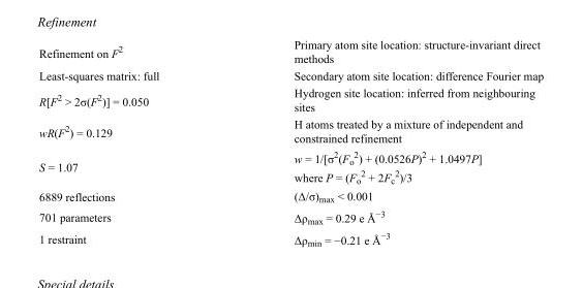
<table><tbody><tr><td>Refinement on F<sup>2</sup></td><td>Primary atom site location: structure-invariant direct methods</td></tr><tr><td>Least-squares matrix: full</td><td>Secondary atom site location: difference Fourier map</td></tr><tr><td>R[F<sup>2</sup> &gt; 2σ(F<sup>2</sup>)] = 0.050</td><td>Hydrogen site location: inferred from neighbouring sites</td></tr><tr><td>wR(F<sup>2</sup>) = 0.129</td><td>H atoms treated by a mixture of independent and constrained refinement</td></tr><tr><td>S = 1.07</td><td>w = 1/[σ<sup>2</sup>(F<sub>o</sub> <sup>2</sup>) + (0.0526P)<sup>2</sup> + 1.0497P] where P = (F<sub>o</sub> <sup>2</sup> + 2F<sub>c</sub> <sup>2</sup>)/3</td></tr><tr><td>6889 reflections</td><td>(Δ/σ)<sub>max</sub> &lt; 0.001</td></tr><tr><td>701 parameters</td><td>Δρ<sub>max</sub> = 0.29 e Å<sup>−3</sup></td></tr><tr><td>1 restraint</td><td>Δρ<sub>min</sub> = −0.21 e Å<sup>−3</sup></td></tr></tbody></table>